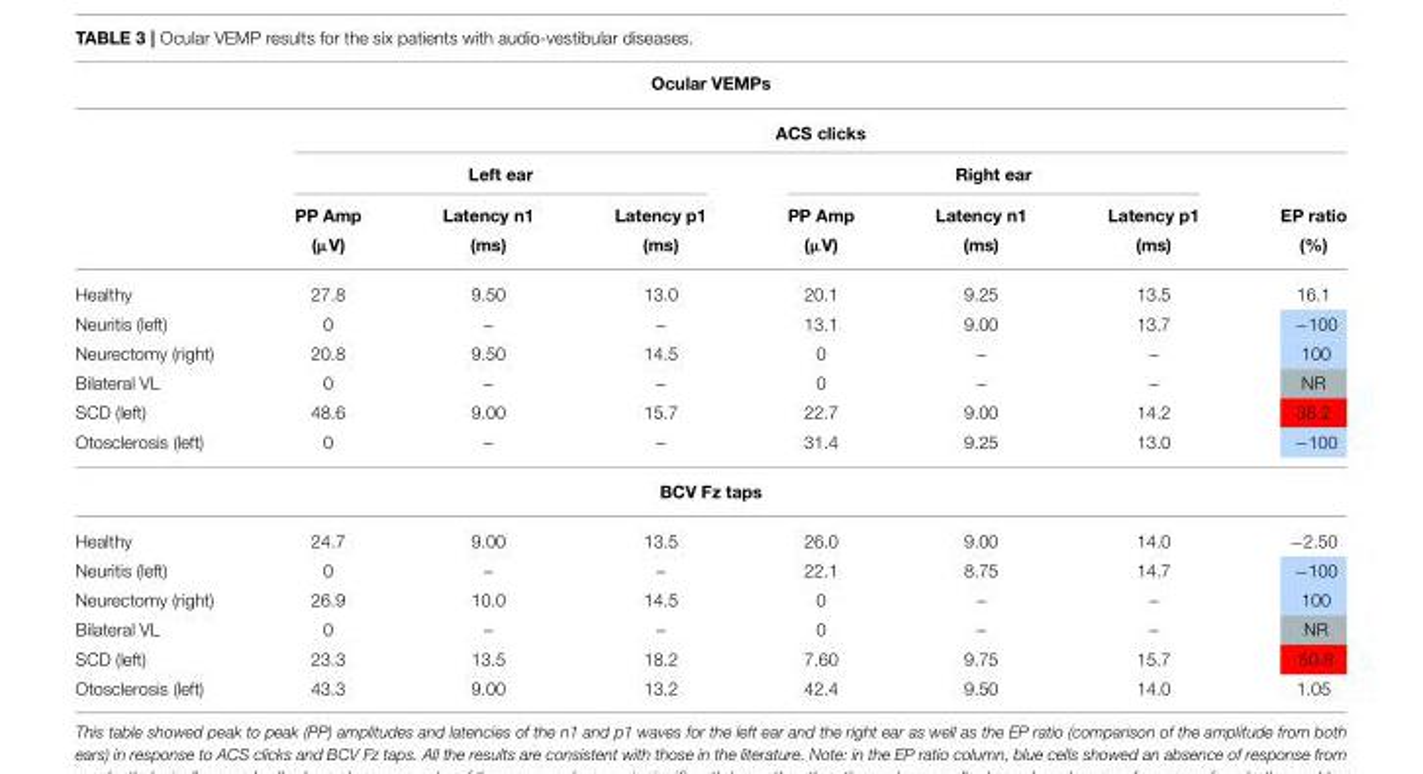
<table><thead><tr><td colspan="8">Ocular VEMPs</td></tr><tr><td rowspan="3"></td><td colspan="7">ACS clicks</td></tr><tr><td colspan="3">Left ear</td><td colspan="3">Right ear</td><td rowspan="2">EP ratio</td></tr><tr><td>PP Amp</td><td>Latency n1</td><td>Latency p1</td><td>PP Amp</td><td>Latency n1</td><td>Latency p1</td></tr></thead><tbody><tr><td></td><td>(µV)</td><td>(ms)</td><td>(ms)</td><td>(µV)</td><td>(ms)</td><td>(ms)</td><td>(%)</td></tr><tr><td>Healthy</td><td>27.8</td><td>9.50</td><td>13.0</td><td>20.1</td><td>9.25</td><td>13.5</td><td>16.1</td></tr><tr><td>Neuritis (left)</td><td>0</td><td>–</td><td>–</td><td>13.1</td><td>9.00</td><td>13.7</td><td>−100</td></tr><tr><td>Neurectomy (right)</td><td>20.8</td><td>9.50</td><td>14.5</td><td>0</td><td>–</td><td>–</td><td>100</td></tr><tr><td>Bilateral VL</td><td>0</td><td>–</td><td>–</td><td>0</td><td>–</td><td>–</td><td>NR</td></tr><tr><td>SCD (left)</td><td>48.6</td><td>9.00</td><td>15.7</td><td>22.7</td><td>9.00</td><td>14.2</td><td>36.2</td></tr><tr><td>Otosclerosis (left)</td><td>0</td><td>–</td><td>–</td><td>31.4</td><td>9.25</td><td>13.0</td><td>−100</td></tr><tr><td colspan="8">BCV Fz taps</td></tr><tr><td>Healthy</td><td>24.7</td><td>9.00</td><td>13.5</td><td>26.0</td><td>9.00</td><td>14.0</td><td>−2.50</td></tr><tr><td>Neuritis (left)</td><td>0</td><td>–</td><td>–</td><td>22.1</td><td>8.75</td><td>14.7</td><td>−100</td></tr><tr><td>Neurectomy (right)</td><td>26.9</td><td>10.0</td><td>14.5</td><td>0</td><td>–</td><td>–</td><td>100</td></tr><tr><td>Bilateral VL</td><td>0</td><td>–</td><td>–</td><td>0</td><td>–</td><td>–</td><td>NR</td></tr><tr><td>SCD (left)</td><td>23.3</td><td>13.5</td><td>18.2</td><td>7.60</td><td>9.75</td><td>15.7</td><td>50.8</td></tr><tr><td>Otosclerosis (left)</td><td>43.3</td><td>9.00</td><td>13.2</td><td>42.4</td><td>9.50</td><td>14.0</td><td>1.05</td></tr></tbody></table>